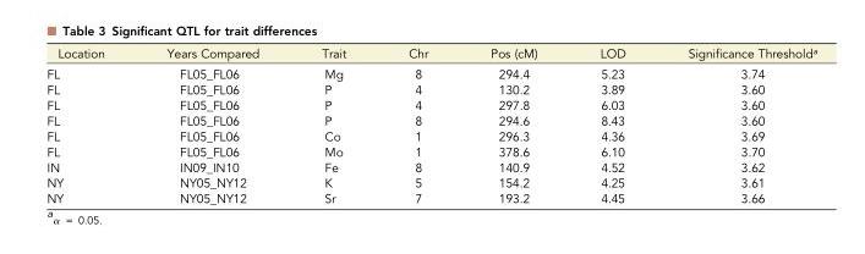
<table><thead><tr><td>Location</td><td>Years Compared</td><td>Trait</td><td>Chr</td><td>Pos (cM)</td><td>LOD</td><td>Significance Threshold<sup>a</sup></td></tr></thead><tbody><tr><td>FL</td><td>FL05_FL06</td><td>Mg</td><td>8</td><td>294.4</td><td>5.23</td><td>3.74</td></tr><tr><td>FL</td><td>FL05_FL06</td><td>P</td><td>4</td><td>130.2</td><td>3.89</td><td>3.60</td></tr><tr><td>FL</td><td>FL05_FL06</td><td>P</td><td>4</td><td>297.8</td><td>6.03</td><td>3.60</td></tr><tr><td>FL</td><td>FL05_FL06</td><td>P</td><td>8</td><td>294.6</td><td>8.43</td><td>3.60</td></tr><tr><td>FL</td><td>FL05_FL06</td><td>Co</td><td>1</td><td>296.3</td><td>4.36</td><td>3.69</td></tr><tr><td>FL</td><td>FL05_FL06</td><td>Mo</td><td>1</td><td>378.6</td><td>6.10</td><td>3.70</td></tr><tr><td>IN</td><td>IN09_IN10</td><td>Fe</td><td>8</td><td>140.9</td><td>4.52</td><td>3.62</td></tr><tr><td>NY</td><td>NY05_NY12</td><td>K</td><td>5</td><td>154.2</td><td>4.25</td><td>3.61</td></tr><tr><td>NY</td><td>NY05_NY12</td><td>Sr</td><td>7</td><td>193.2</td><td>4.45</td><td>3.66</td></tr></tbody></table>